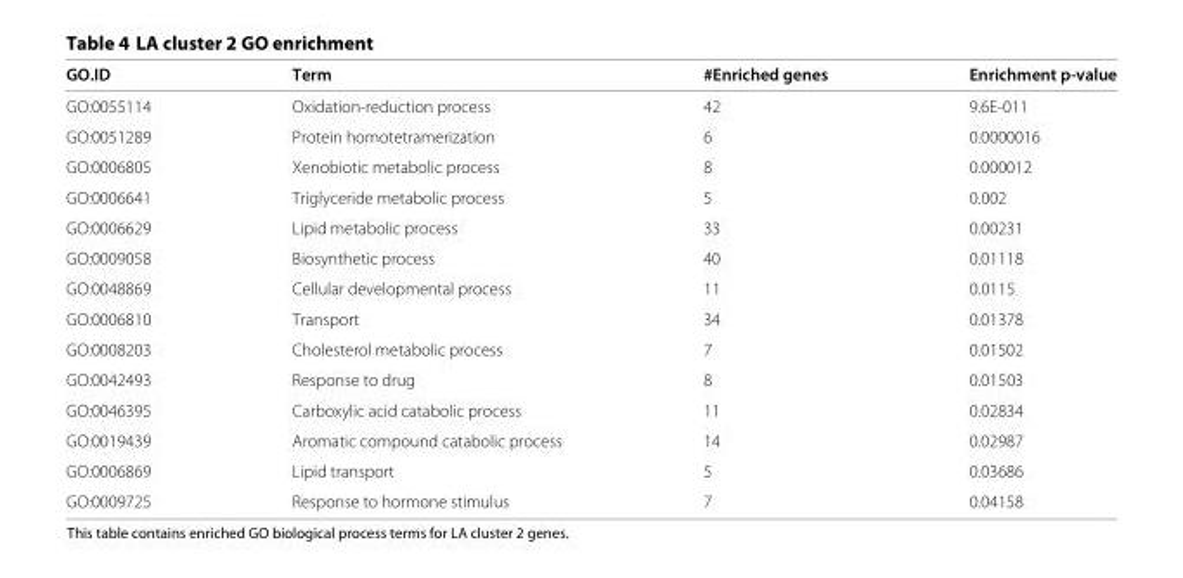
<table><thead><tr><td>GO.ID</td><td>Term</td><td>#Enriched genes</td><td>Enrichment p-value</td></tr></thead><tbody><tr><td>GO:0055114</td><td>Oxidation-reduction process</td><td>42</td><td>9.6E-011</td></tr><tr><td>GO:0051289</td><td>Protein homotetramerization</td><td>6</td><td>0.0000016</td></tr><tr><td>GO:0006805</td><td>Xenobiotic metabolic process</td><td>8</td><td>0.000012</td></tr><tr><td>GO:0006641</td><td>Triglyceride metabolic process</td><td>5</td><td>0.002</td></tr><tr><td>GO:0006629</td><td>Lipid metabolic process</td><td>33</td><td>0.00231</td></tr><tr><td>GO:0009058</td><td>Biosynthetic process</td><td>40</td><td>0.01118</td></tr><tr><td>GO:0048869</td><td>Cellular developmental process</td><td>11</td><td>0.0115</td></tr><tr><td>GO:0006810</td><td>Transport</td><td>34</td><td>0.01378</td></tr><tr><td>GO:0008203</td><td>Cholesterol metabolic process</td><td>7</td><td>0.01502</td></tr><tr><td>GO:0042493</td><td>Response to drug</td><td>8</td><td>0.01503</td></tr><tr><td>GO:0046395</td><td>Carboxylic acid catabolic process</td><td>11</td><td>0.02834</td></tr><tr><td>GO:0019439</td><td>Aromatic compound catabolic process</td><td>14</td><td>0.02987</td></tr><tr><td>GO:0006869</td><td>Lipid transport</td><td>5</td><td>0.03686</td></tr><tr><td>GO:0009725</td><td>Response to hormone stimulus</td><td>7</td><td>0.04158</td></tr></tbody></table>